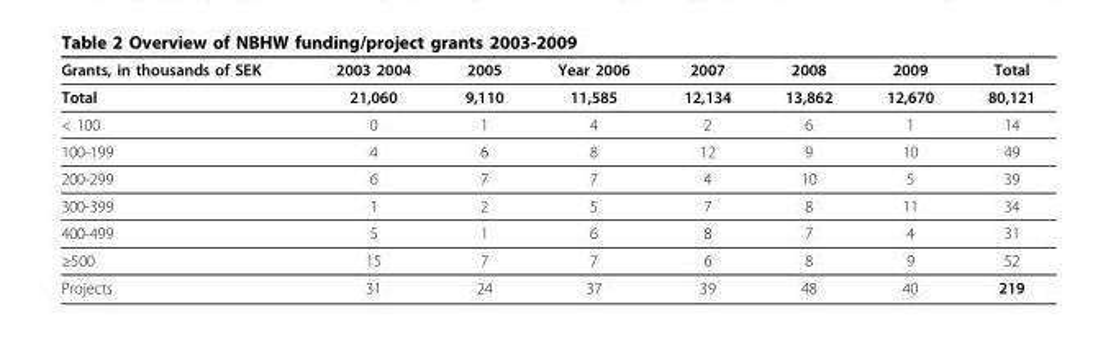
<table><thead><tr><td>Grants, in thousands of SEK</td><td>2003 2004</td><td>2005</td><td>Year 2006</td><td>2007</td><td>2008</td><td>2009</td><td>Total</td></tr></thead><tbody><tr><td>Total</td><td>21,060</td><td>9,110</td><td>11,585</td><td>12,134</td><td>13,862</td><td>12,670</td><td>80,121</td></tr><tr><td>&lt; 100</td><td>0</td><td>1</td><td>4</td><td>2</td><td>6</td><td>1</td><td>14</td></tr><tr><td>100-199</td><td>4</td><td>6</td><td>8</td><td>12</td><td>9</td><td>10</td><td>49</td></tr><tr><td>200-299</td><td>6</td><td>7</td><td>7</td><td>4</td><td>10</td><td>5</td><td>39</td></tr><tr><td>300-399</td><td>1</td><td>2</td><td>5</td><td>7</td><td>8</td><td>11</td><td>34</td></tr><tr><td>400-499</td><td>5</td><td>1</td><td>6</td><td>8</td><td>7</td><td>4</td><td>31</td></tr><tr><td>≥500</td><td>15</td><td>7</td><td>7</td><td>6</td><td>8</td><td>9</td><td>52</td></tr><tr><td>Projects</td><td>31</td><td>24</td><td>37</td><td>39</td><td>48</td><td>40</td><td>219</td></tr></tbody></table>